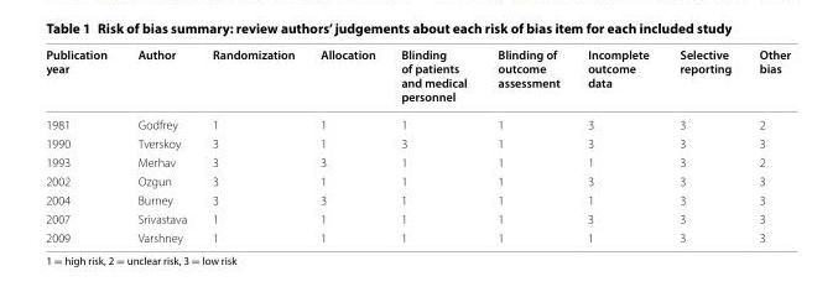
<table><thead><tr><td>Publication year</td><td>Author</td><td>Randomization</td><td>Allocation</td><td>Blinding of patients and medical personnel</td><td>Blinding of outcome assessment</td><td>Incomplete outcome data</td><td>Selective reporting</td><td>Other bias</td></tr></thead><tbody><tr><td>1981</td><td>Godfrey</td><td>1</td><td>1</td><td>1</td><td>1</td><td>3</td><td>3</td><td>2</td></tr><tr><td>1990</td><td>Tverskoy</td><td>3</td><td>1</td><td>3</td><td>1</td><td>3</td><td>3</td><td>3</td></tr><tr><td>1993</td><td>Merhav</td><td>3</td><td>3</td><td>1</td><td>1</td><td>1</td><td>3</td><td>2</td></tr><tr><td>2002</td><td>Ozgun</td><td>3</td><td>1</td><td>1</td><td>1</td><td>3</td><td>3</td><td>3</td></tr><tr><td>2004</td><td>Burney</td><td>3</td><td>3</td><td>1</td><td>1</td><td>1</td><td>3</td><td>3</td></tr><tr><td>2007</td><td>Srivastava</td><td>1</td><td>1</td><td>1</td><td>1</td><td>3</td><td>3</td><td>3</td></tr><tr><td>2009</td><td>Varshney</td><td>1</td><td>1</td><td>1</td><td>1</td><td>1</td><td>3</td><td>3</td></tr></tbody></table>